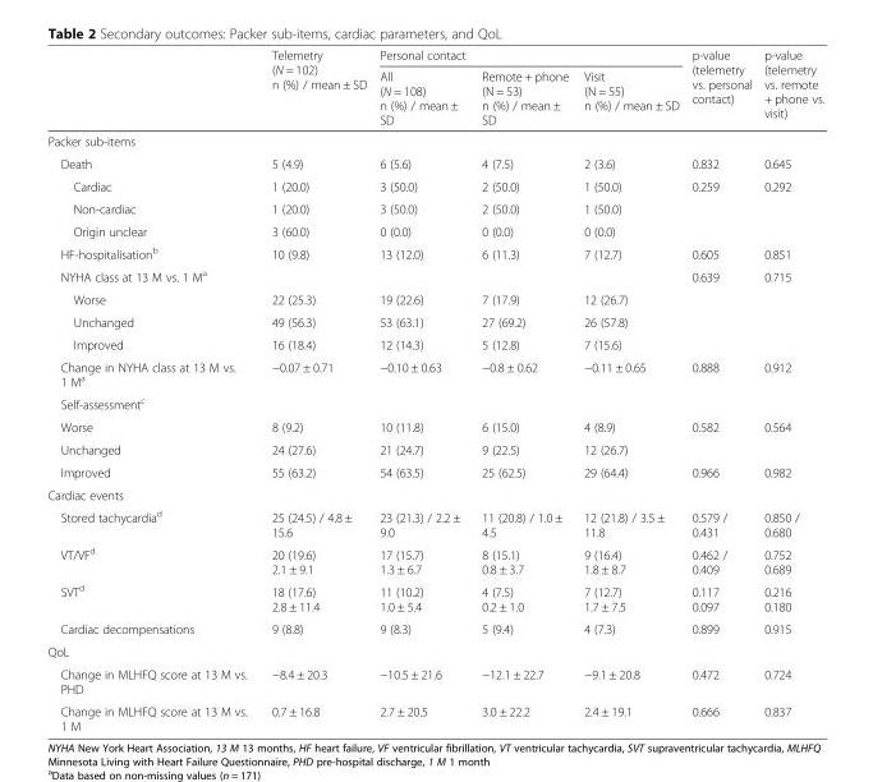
<table><thead><tr><td rowspan="2"></td><td rowspan="2">Telemetry (N = 102) n (%) / mean ± SD</td><td colspan="3">Personal contact</td><td rowspan="2">p-value (telemetry vs. personal contact)</td><td rowspan="2">p-value (telemetry vs. remote + phone vs. visit)</td></tr><tr><td>All (N = 108) n (%) / mean ± SD</td><td>Remote + phone (N = 53) n (%) / mean ± SD</td><td>Visit (N = 55) n (%) / mean ± SD</td></tr></thead><tbody><tr><td colspan="7">Packer sub-items</td></tr><tr><td>Death</td><td>5 (4.9)</td><td>6 (5.6)</td><td>4 (7.5)</td><td>2 (3.6)</td><td>0.832</td><td>0.645</td></tr><tr><td>Cardiac</td><td>1 (20.0)</td><td>3 (50.0)</td><td>2 (50.0)</td><td>1 (50.0)</td><td rowspan="3">0.259</td><td rowspan="3">0.292</td></tr><tr><td>Non-cardiac</td><td>1 (20.0)</td><td>3 (50.0)</td><td>2 (50.0)</td><td>1 (50.0)</td></tr><tr><td>Origin unclear</td><td>3 (60.0)</td><td>0 (0.0)</td><td>0 (0.0)</td><td>0 (0.0)</td></tr><tr><td>HF-hospitalisation<sup>b</sup></td><td>10 (9.8)</td><td>13 (12.0)</td><td>6 (11.3)</td><td>7 (12.7)</td><td>0.605</td><td>0.851</td></tr><tr><td>NYHA class at 13 M vs. 1 M<sup>a</sup></td><td></td><td></td><td></td><td></td><td>0.639</td><td>0.715</td></tr><tr><td>Worse</td><td>22 (25.3)</td><td>19 (22.6)</td><td>7 (17.9)</td><td>12 (26.7)</td><td></td><td></td></tr><tr><td>Unchanged</td><td>49 (56.3)</td><td>53 (63.1)</td><td>27 (69.2)</td><td>26 (57.8)</td><td></td><td></td></tr><tr><td>Improved</td><td>16 (18.4)</td><td>12 (14.3)</td><td>5 (12.8)</td><td>7 (15.6)</td><td></td><td></td></tr><tr><td>Change in NYHA class at 13 M vs. 1 M<sup>a</sup></td><td>−0.07 ± 0.71</td><td>−0.10 ± 0.63</td><td>−0.8 ± 0.62</td><td>−0.11 ± 0.65</td><td>0.888</td><td>0.912</td></tr><tr><td colspan="7">Self-assessment<sup>c</sup></td></tr><tr><td>Worse</td><td>8 (9.2)</td><td>10 (11.8)</td><td>6 (15.0)</td><td>4 (8.9)</td><td>0.582</td><td>0.564</td></tr><tr><td>Unchanged</td><td>24 (27.6)</td><td>21 (24.7)</td><td>9 (22.5)</td><td>12 (26.7)</td><td></td><td></td></tr><tr><td>Improved</td><td>55 (63.2)</td><td>54 (63.5)</td><td>25 (62.5)</td><td>29 (64.4)</td><td>0.966</td><td>0.982</td></tr><tr><td colspan="7">Cardiac events</td></tr><tr><td>Stored tachycardia<sup>d</sup></td><td>25 (24.5) / 4.8 ± 15.6</td><td>23 (21.3) / 2.2 ± 9.0</td><td>11 (20.8) / 1.0 ± 4.5</td><td>12 (21.8) / 3.5 ± 11.8</td><td>0.579 / 0.431</td><td>0.850 / 0.680</td></tr><tr><td>VT/VF<sup>d</sup></td><td>20 (19.6) 2.1 ± 9.1</td><td>17 (15.7) 1.3 ± 6.7</td><td>8 (15.1) 0.8 ± 3.7</td><td>9 (16.4) 1.8 ± 8.7</td><td>0.462 / 0.409</td><td>0.752 0.689</td></tr><tr><td>SVT<sup>d</sup></td><td>18 (17.6) 2.8 ± 11.4</td><td>11 (10.2) 1.0 ± 5.4</td><td>4 (7.5) 0.2 ± 1.0</td><td>7 (12.7) 1.7 ± 7.5</td><td>0.117 0.097</td><td>0.216 0.180</td></tr><tr><td>Cardiac decompensations</td><td>9 (8.8)</td><td>9 (8.3)</td><td>5 (9.4)</td><td>4 (7.3)</td><td>0.899</td><td>0.915</td></tr><tr><td colspan="7">QoL</td></tr><tr><td>Change in MLHFQ score at 13 M vs. PHD</td><td>−8.4 ± 20.3</td><td>−10.5 ± 21.6</td><td>−12.1 ± 22.7</td><td>−9.1 ± 20.8</td><td>0.472</td><td>0.724</td></tr><tr><td>Change in MLHFQ score at 13 M vs. 1 M</td><td>0.7 ± 16.8</td><td>2.7 ± 20.5</td><td>3.0 ± 22.2</td><td>2.4 ± 19.1</td><td>0.666</td><td>0.837</td></tr></tbody></table>